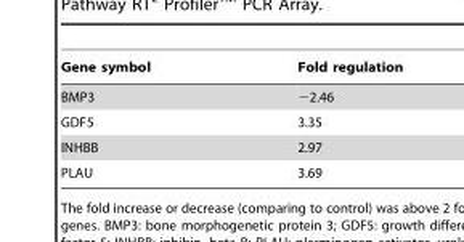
<table><thead><tr><td>Gene symbol</td><td>Fold regulation</td></tr></thead><tbody><tr><td>BMP3</td><td>−2.46</td></tr><tr><td>GDF5</td><td>3.35</td></tr><tr><td>INHBB</td><td>2.97</td></tr><tr><td>PLAU</td><td>3.69</td></tr></tbody></table>